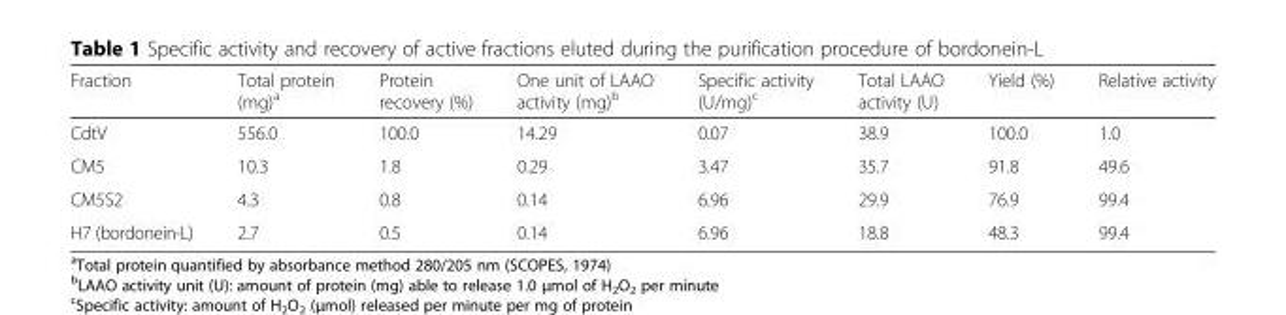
<table><thead><tr><td>Fraction</td><td>Total protein (mg)<sup>a</sup></td><td>Protein recovery (%)</td><td>One unit of LAAO activity (mg)<sup>b</sup></td><td>Specific activity (U/mg)<sup>c</sup></td><td>Total LAAO activity (U)</td><td>Yield (%)</td><td>Relative activity</td></tr></thead><tbody><tr><td>CdtV</td><td>556.0</td><td>100.0</td><td>14.29</td><td>0.07</td><td>38.9</td><td>100.0</td><td>1.0</td></tr><tr><td>CM5</td><td>10.3</td><td>1.8</td><td>0.29</td><td>3.47</td><td>35.7</td><td>91.8</td><td>49.6</td></tr><tr><td>CM5S2</td><td>4.3</td><td>0.8</td><td>0.14</td><td>6.96</td><td>29.9</td><td>76.9</td><td>99.4</td></tr><tr><td>H7 (bordonein-L)</td><td>2.7</td><td>0.5</td><td>0.14</td><td>6.96</td><td>18.8</td><td>48.3</td><td>99.4</td></tr></tbody></table>